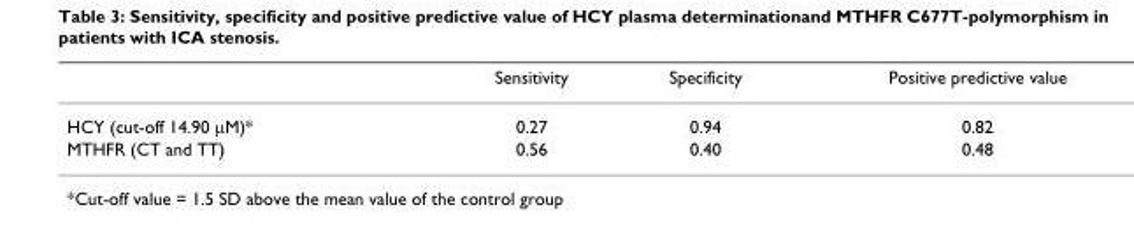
<table><thead><tr><td></td><td>Sensitivity</td><td>Specificity</td><td>Positive predictive value</td></tr></thead><tbody><tr><td>HCY (cut-off 14.90 μM)*</td><td>0.27</td><td>0.94</td><td>0.82</td></tr><tr><td>MTHFR (CT and TT)</td><td>0.56</td><td>0.40</td><td>0.48</td></tr></tbody></table>